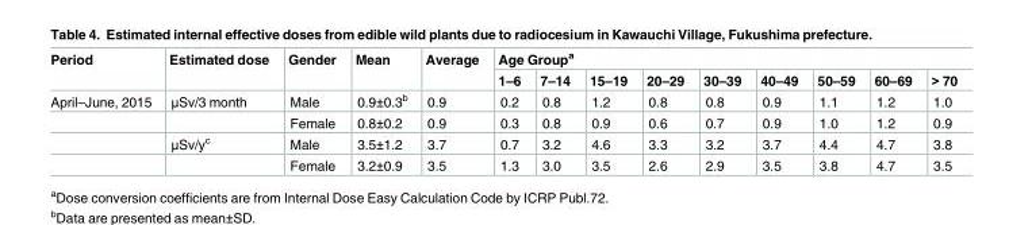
<table><thead><tr><td rowspan="2">Period</td><td rowspan="2">Estimated dose</td><td rowspan="2">Gender</td><td rowspan="2">Mean</td><td rowspan="2">Average</td><td colspan="9">Age Group<sup>a</sup></td></tr><tr><td>1–6</td><td>7–14</td><td>15–19</td><td>20–29</td><td>30–39</td><td>40–49</td><td>50–59</td><td>60–69</td><td>&gt; 70</td></tr></thead><tbody><tr><td rowspan="4">April–June, 2015</td><td>μSv/3 month</td><td>Male</td><td>0.9±0.3<sup>b</sup></td><td>0.9</td><td>0.2</td><td>0.8</td><td>1.2</td><td>0.8</td><td>0.8</td><td>0.9</td><td>1.1</td><td>1.2</td><td>1.0</td></tr><tr><td></td><td>Female</td><td>0.8±0.2</td><td>0.9</td><td>0.3</td><td>0.8</td><td>0.9</td><td>0.6</td><td>0.7</td><td>0.9</td><td>1.0</td><td>1.2</td><td>0.9</td></tr><tr><td>μSv/y<sup>c</sup></td><td>Male</td><td>3.5±1.2</td><td>3.7</td><td>0.7</td><td>3.2</td><td>4.6</td><td>3.3</td><td>3.2</td><td>3.7</td><td>4.4</td><td>4.7</td><td>3.8</td></tr><tr><td></td><td>Female</td><td>3.2±0.9</td><td>3.5</td><td>1.3</td><td>3.0</td><td>3.5</td><td>2.6</td><td>2.9</td><td>3.5</td><td>3.8</td><td>4.7</td><td>3.5</td></tr></tbody></table>